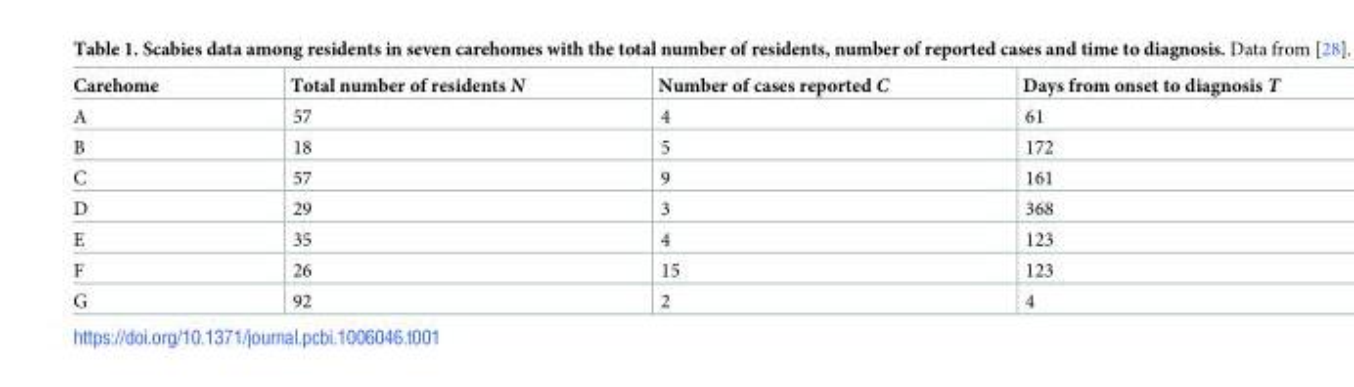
<table><thead><tr><td>Carehome</td><td>Total number of residents N</td><td>Number of cases reported C</td><td>Days from onset to diagnosis T</td></tr></thead><tbody><tr><td>A</td><td>57</td><td>4</td><td>61</td></tr><tr><td>B</td><td>18</td><td>5</td><td>172</td></tr><tr><td>C</td><td>57</td><td>9</td><td>161</td></tr><tr><td>D</td><td>29</td><td>3</td><td>368</td></tr><tr><td>E</td><td>35</td><td>4</td><td>123</td></tr><tr><td>F</td><td>26</td><td>15</td><td>123</td></tr><tr><td>G</td><td>92</td><td>2</td><td>4</td></tr></tbody></table>